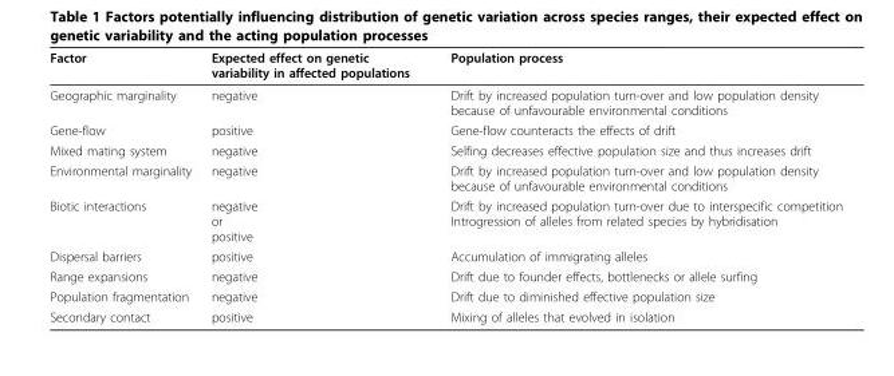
<table><thead><tr><td>Factor</td><td>Expected effect on genetic variability in affected populations</td><td>Population process</td></tr></thead><tbody><tr><td>Geographic marginality</td><td>negative</td><td>Drift by increased population turn-over and low population density because of unfavourable environmental conditions</td></tr><tr><td>Gene-flow</td><td>positive</td><td>Gene-flow counteracts the effects of drift</td></tr><tr><td>Mixed mating system</td><td>negative</td><td>Selfing decreases effective population size and thus increases drift</td></tr><tr><td>Environmental marginality</td><td>negative</td><td>Drift by increased population turn-over and low population density because of unfavourable environmental conditions</td></tr><tr><td>Biotic interactions</td><td>negative or positive</td><td>Drift by increased population turn-over due to interspecific competition Introgression of alleles from related species by hybridisation</td></tr><tr><td>Dispersal barriers</td><td>positive</td><td>Accumulation of immigrating alleles</td></tr><tr><td>Range expansions</td><td>negative</td><td>Drift due to founder effects, bottlenecks or allele surfing</td></tr><tr><td>Population fragmentation</td><td>negative</td><td>Drift due to diminished effective population size</td></tr><tr><td>Secondary contact</td><td>positive</td><td>Mixing of alleles that evolved in isolation</td></tr></tbody></table>